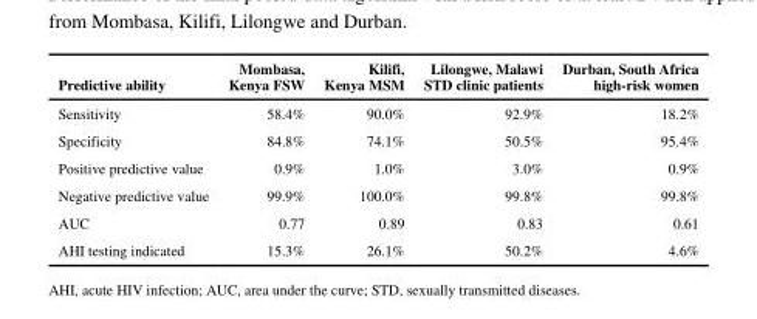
<table><thead><tr><td>Predictive ability</td><td>Mombasa, Kenya FSW</td><td>Kilifi, Kenya MSM</td><td>Lilongwe, Malawi STD clinic patients</td><td>Durban, South Africa high-risk women</td></tr></thead><tbody><tr><td>Sensitivity</td><td>58.4%</td><td>90.0%</td><td>92.9%</td><td>18.2%</td></tr><tr><td>Specificity</td><td>84.8%</td><td>74.1%</td><td>50.5%</td><td>95.4%</td></tr><tr><td>Positive predictive value</td><td>0.9%</td><td>1.0%</td><td>3.0%</td><td>0.9%</td></tr><tr><td>Negative predictive value</td><td>99.9%</td><td>100.0%</td><td>99.8%</td><td>99.8%</td></tr><tr><td>AUC</td><td>0.77</td><td>0.89</td><td>0.83</td><td>0.61</td></tr><tr><td>AHI testing indicated</td><td>15.3%</td><td>26.1%</td><td>50.2%</td><td>4.6%</td></tr></tbody></table>